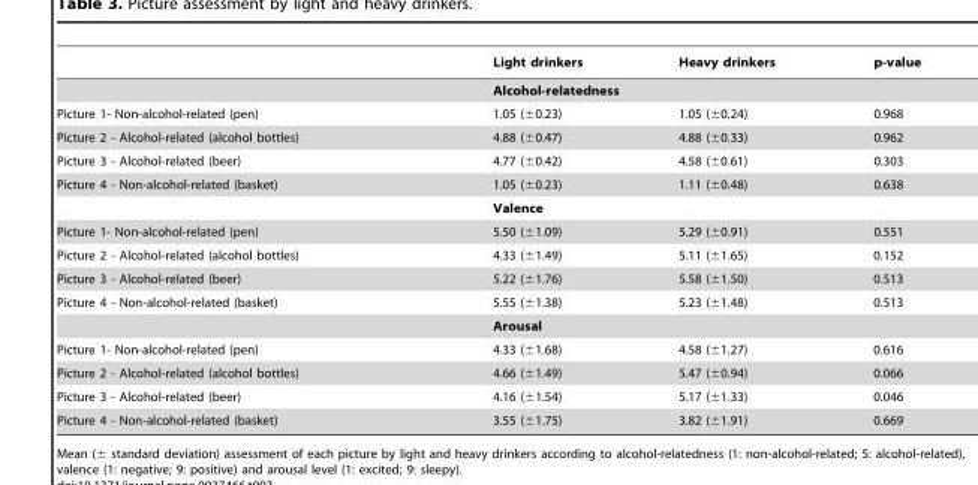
<table><thead><tr><td></td><td>Light drinkers</td><td>Heavy drinkers</td><td>p-value</td></tr></thead><tbody><tr><td></td><td colspan="3">Alcohol-relatedness</td></tr><tr><td>Picture 1- Non-alcohol-related (pen)</td><td>1.05 (±0.23)</td><td>1.05 (±0.24)</td><td>0.968</td></tr><tr><td>Picture 2 - Alcohol-related (alcohol bottles)</td><td>4.88 (±0.47)</td><td>4.88 (±0.33)</td><td>0.962</td></tr><tr><td>Picture 3 - Alcohol-related (beer)</td><td>4.77 (±0.42)</td><td>4.58 (±0.61)</td><td>0.303</td></tr><tr><td rowspan="2">Picture 4 - Non-alcohol-related (basket)</td><td>1.05 (±0.23)</td><td>1.11 (±0.48)</td><td>0.638</td></tr><tr><td colspan="3">Valence</td></tr><tr><td>Picture 1- Non-alcohol-related (pen)</td><td>5.50 (±1.09)</td><td>5.29 (±0.91)</td><td>0.551</td></tr><tr><td>Picture 2 - Alcohol-related (alcohol bottles)</td><td>4.33 (±1.49)</td><td>5.11 (±1.65)</td><td>0.152</td></tr><tr><td>Picture 3 - Alcohol-related (beer)</td><td>5.22 (±1.76)</td><td>5.58 (±1.50)</td><td>0.513</td></tr><tr><td rowspan="2">Picture 4 - Non-alcohol-related (basket)</td><td>5.55 (±1.38)</td><td>5.23 (±1.48)</td><td>0.513</td></tr><tr><td colspan="3">Arousal</td></tr><tr><td>Picture 1- Non-alcohol-related (pen)</td><td>4.33 (±1.68)</td><td>4.58 (±1.27)</td><td>0.616</td></tr><tr><td>Picture 2 - Alcohol-related (alcohol bottles)</td><td>4.66 (±1.49)</td><td>5.47 (±0.94)</td><td>0.066</td></tr><tr><td>Picture 3 - Alcohol-related (beer)</td><td>4.16 (±1.54)</td><td>5.17 (±1.33)</td><td>0.046</td></tr><tr><td>Picture 4 - Non-alcohol-related (basket)</td><td>3.55 (±1.75)</td><td>3.82 (±1.91)</td><td>0.669</td></tr></tbody></table>